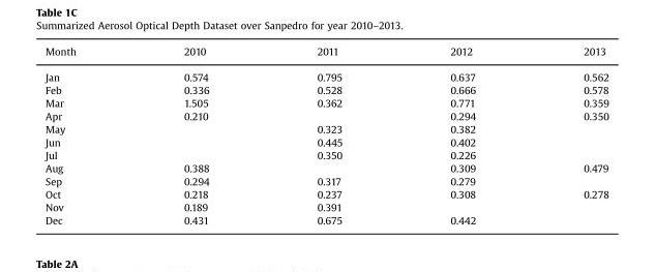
<table><thead><tr><td>Month</td><td>2010</td><td>2011</td><td>2012</td><td>2013</td></tr></thead><tbody><tr><td>Jan</td><td>0.574</td><td>0.795</td><td>0.637</td><td>0.562</td></tr><tr><td>Feb</td><td>0.336</td><td>0.528</td><td>0.666</td><td>0.578</td></tr><tr><td>Mar</td><td>1.505</td><td>0.362</td><td>0.771</td><td>0.359</td></tr><tr><td>Apr</td><td>0.210</td><td></td><td>0.294</td><td>0.350</td></tr><tr><td>May</td><td></td><td>0.323</td><td>0.382</td><td></td></tr><tr><td>Jun</td><td></td><td>0.445</td><td>0.402</td><td></td></tr><tr><td>Jul</td><td></td><td>0.350</td><td>0.226</td><td></td></tr><tr><td>Aug</td><td>0.388</td><td></td><td>0.309</td><td>0.479</td></tr><tr><td>Sep</td><td>0.294</td><td>0.317</td><td>0.279</td><td></td></tr><tr><td>Oct</td><td>0.218</td><td>0.237</td><td>0.308</td><td>0.278</td></tr><tr><td>Nov</td><td>0.189</td><td>0.391</td><td></td><td></td></tr><tr><td>Dec</td><td>0.431</td><td>0.675</td><td>0.442</td><td></td></tr></tbody></table>